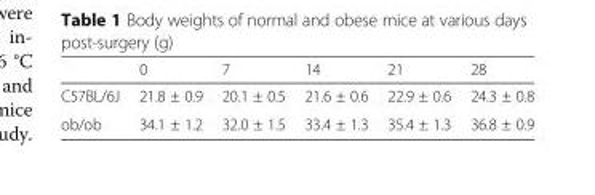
<table><thead><tr><td></td><td>0</td><td>7</td><td>14</td><td>21</td><td>28</td></tr></thead><tbody><tr><td>C57BL/6J</td><td>21.8 ± 0.9</td><td>20.1 ± 0.5</td><td>21.6 ± 0.6</td><td>22.9 ± 0.6</td><td>24.3 ± 0.8</td></tr><tr><td>ob/ob</td><td>34.1 ± 1.2</td><td>32.0 ± 1.5</td><td>33.4 ± 1.3</td><td>35.4 ± 1.3</td><td>36.8 ± 0.9</td></tr></tbody></table>